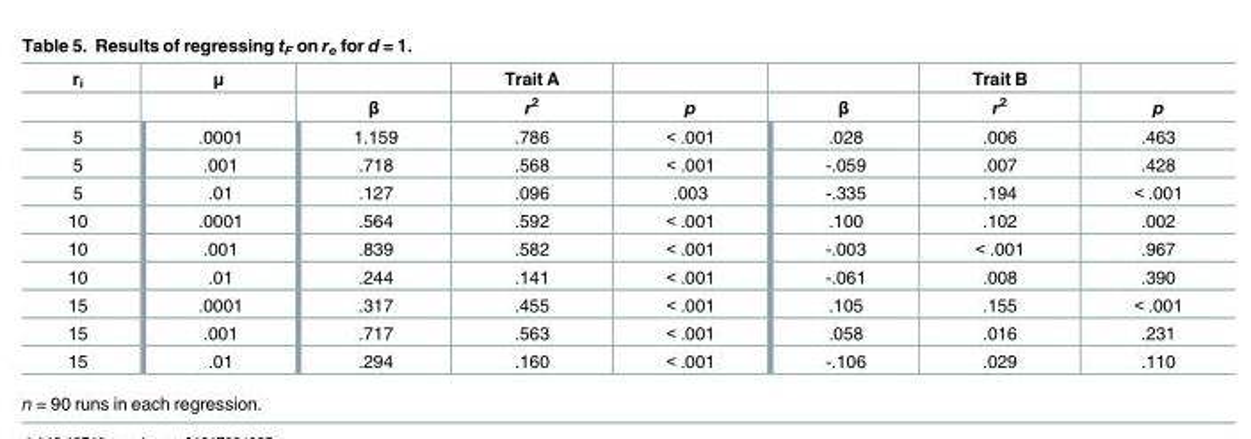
<table><thead><tr><td rowspan="2">r<sub>i</sub></td><td rowspan="2">μ</td><td rowspan="2">β</td><td rowspan="2">Trait A r<sup>2</sup></td><td rowspan="2">p</td><td rowspan="2">β</td><td rowspan="2">Trait B r<sup>2</sup></td><td rowspan="2">p</td></tr><tr></tr></thead><tbody><tr><td>5</td><td>.0001</td><td>1.159</td><td>.786</td><td>&lt; .001</td><td>.028</td><td>.006</td><td>.463</td></tr><tr><td>5</td><td>.001</td><td>.718</td><td>.568</td><td>&lt; .001</td><td>-.059</td><td>.007</td><td>.428</td></tr><tr><td>5</td><td>.01</td><td>.127</td><td>.096</td><td>.003</td><td>-.335</td><td>.194</td><td>&lt; .001</td></tr><tr><td>10</td><td>.0001</td><td>.564</td><td>.592</td><td>&lt; .001</td><td>.100</td><td>.102</td><td>.002</td></tr><tr><td>10</td><td>.001</td><td>.839</td><td>.582</td><td>&lt; .001</td><td>-.003</td><td>&lt; .001</td><td>.967</td></tr><tr><td>10</td><td>.01</td><td>.244</td><td>.141</td><td>&lt; .001</td><td>-.061</td><td>.008</td><td>.390</td></tr><tr><td>15</td><td>.0001</td><td>.317</td><td>.455</td><td>&lt; .001</td><td>.105</td><td>.155</td><td>&lt; .001</td></tr><tr><td>15</td><td>.001</td><td>.717</td><td>.563</td><td>&lt; .001</td><td>.058</td><td>.016</td><td>.231</td></tr><tr><td>15</td><td>.01</td><td>.294</td><td>.160</td><td>&lt; .001</td><td>-.106</td><td>.029</td><td>.110</td></tr></tbody></table>